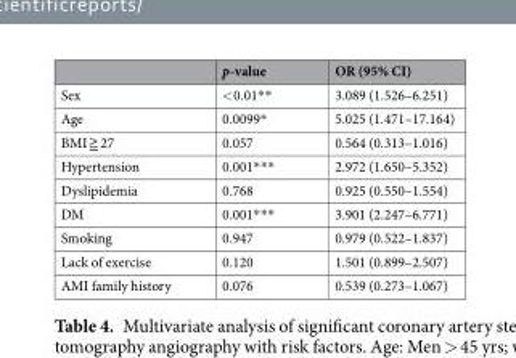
<table><thead><tr><td></td><td>p-value</td><td>OR (95% CI)</td></tr></thead><tbody><tr><td>Sex</td><td>&lt;0.01**</td><td>3.089 (1.526–6.251)</td></tr><tr><td>Age</td><td>0.0099*</td><td>5.025 (1.471–17.164)</td></tr><tr><td>BMI ≧ 27</td><td>0.057</td><td>0.564 (0.313–1.016)</td></tr><tr><td>Hypertension</td><td>0.001***</td><td>2.972 (1.650–5.352)</td></tr><tr><td>Dyslipidemia</td><td>0.768</td><td>0.925 (0.550–1.554)</td></tr><tr><td>DM</td><td>0.001***</td><td>3.901 (2.247–6.771)</td></tr><tr><td>Smoking</td><td>0.947</td><td>0.979 (0.522–1.837)</td></tr><tr><td>Lack of exercise</td><td>0.120</td><td>1.501 (0.899–2.507)</td></tr><tr><td>AMI family history</td><td>0.076</td><td>0.539 (0.273–1.067)</td></tr></tbody></table>